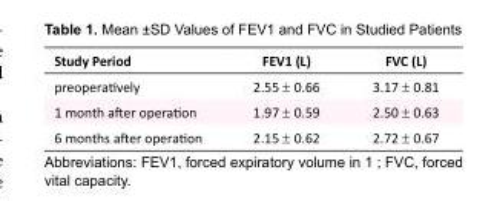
<table><tbody><tr><td>Study Period</td><td>FEV1 (L)</td><td>FVC (L)</td></tr><tr><td>preoperatively</td><td>2.55 ± 0.66</td><td>3.17 ± 0.81</td></tr><tr><td>1 month after operation</td><td>1.97 ± 0.59</td><td>2.50 ± 0.63</td></tr><tr><td>6 months after operation</td><td>2.15 ± 0.62</td><td>2.72 ± 0.67</td></tr></tbody></table>